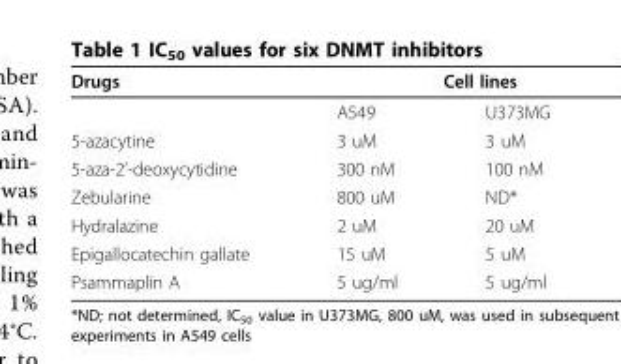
<table><thead><tr><td rowspan="2">Drugs</td><td colspan="2">Cell lines</td></tr><tr><td>A549</td><td>U373MG</td></tr></thead><tbody><tr><td>5-azacytine</td><td>3 uM</td><td>3 uM</td></tr><tr><td>5-aza-2’-deoxycytidine</td><td>300 nM</td><td>100 nM</td></tr><tr><td>Zebularine</td><td>800 uM</td><td>ND*</td></tr><tr><td>Hydralazine</td><td>2 uM</td><td>20 uM</td></tr><tr><td>Epigallocatechin gallate</td><td>15 uM</td><td>5 uM</td></tr><tr><td>Psammaplin A</td><td>5 ug/ml</td><td>5 ug/ml</td></tr></tbody></table>